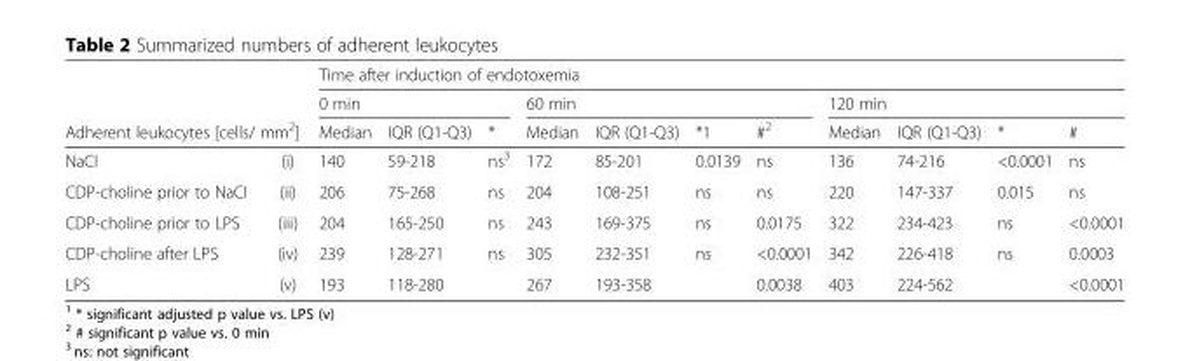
<table><thead><tr><td rowspan="2"></td><td rowspan="2"></td><td colspan="11">Time after induction of endotoxemia</td></tr><tr><td colspan="3">0 min</td><td colspan="4">60 min</td><td colspan="4">120 min</td></tr><tr><td colspan="2">Adherent leukocytes [cells/ mm<sup>2</sup>]</td><td>Median</td><td>IQR (Q1-Q3)</td><td>*</td><td>Median</td><td>IQR (Q1-Q3)</td><td>*1</td><td>#<sup>2</sup></td><td>Median</td><td>IQR (Q1-Q3)</td><td>*</td><td>#</td></tr></thead><tbody><tr><td>NaCI</td><td>(i)</td><td>140</td><td>59-218</td><td>ns<sup>3</sup></td><td>172</td><td>85-201</td><td>0.0139</td><td>ns</td><td>136</td><td>74-216</td><td>&lt;0.0001</td><td>ns</td></tr><tr><td>CDP-choline prior to NaCI</td><td>(ii)</td><td>206</td><td>75-268</td><td>ns</td><td>204</td><td>108-251</td><td>ns</td><td>ns</td><td>220</td><td>147-337</td><td>0.015</td><td>ns</td></tr><tr><td>CDP-choline prior to LPS</td><td>(iii)</td><td>204</td><td>165-250</td><td>ns</td><td>243</td><td>169-375</td><td>ns</td><td>0.0175</td><td>322</td><td>234-423</td><td>ns</td><td>&lt;0.0001</td></tr><tr><td>CDP-choline after LPS</td><td>(iv)</td><td>239</td><td>128-271</td><td>ns</td><td>305</td><td>232-351</td><td>ns</td><td>&lt;0.0001</td><td>342</td><td>226-418</td><td>ns</td><td>0.0003</td></tr><tr><td>LPS</td><td>(v)</td><td>193</td><td>118-280</td><td></td><td>267</td><td>193-358</td><td></td><td>0.0038</td><td>403</td><td>224-562</td><td></td><td>&lt;0.0001</td></tr></tbody></table>